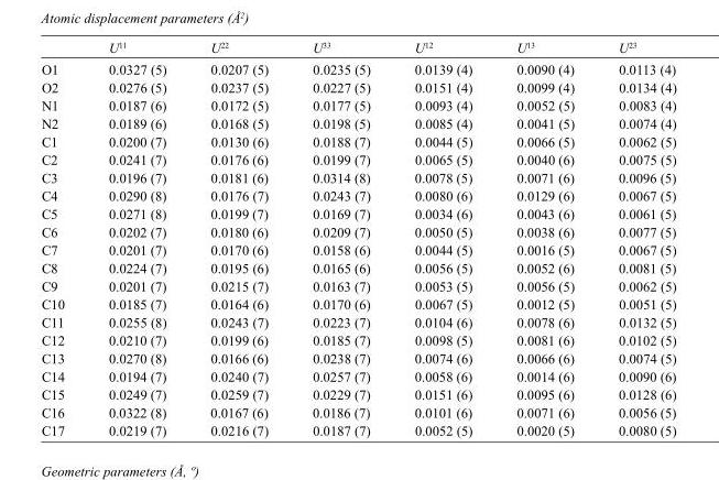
<table><thead><tr><td></td><td>U<sup>11</sup></td><td>U<sup>22</sup></td><td>U<sup>33</sup></td><td>U<sup>12</sup></td><td>U<sup>13</sup></td><td>U<sup>23</sup></td></tr></thead><tbody><tr><td>O1</td><td>0.0327 (5)</td><td>0.0207 (5)</td><td>0.0235 (5)</td><td>0.0139 (4)</td><td>0.0090 (4)</td><td>0.0113 (4)</td></tr><tr><td>O2</td><td>0.0276 (5)</td><td>0.0237 (5)</td><td>0.0227 (5)</td><td>0.0151 (4)</td><td>0.0099 (4)</td><td>0.0134 (4)</td></tr><tr><td>N1</td><td>0.0187 (6)</td><td>0.0172 (5)</td><td>0.0177 (5)</td><td>0.0093 (4)</td><td>0.0052 (5)</td><td>0.0083 (4)</td></tr><tr><td>N2</td><td>0.0189 (6)</td><td>0.0168 (5)</td><td>0.0198 (5)</td><td>0.0085 (4)</td><td>0.0041 (5)</td><td>0.0074 (4)</td></tr><tr><td>C1</td><td>0.0200 (7)</td><td>0.0130 (6)</td><td>0.0188 (7)</td><td>0.0044 (5)</td><td>0.0066 (5)</td><td>0.0062 (5)</td></tr><tr><td>C2</td><td>0.0241 (7)</td><td>0.0176 (6)</td><td>0.0199 (7)</td><td>0.0065 (5)</td><td>0.0040 (6)</td><td>0.0075 (5)</td></tr><tr><td>C3</td><td>0.0196 (7)</td><td>0.0181 (6)</td><td>0.0314 (8)</td><td>0.0078 (5)</td><td>0.0071 (6)</td><td>0.0096 (5)</td></tr><tr><td>C4</td><td>0.0290 (8)</td><td>0.0176 (7)</td><td>0.0243 (7)</td><td>0.0080 (6)</td><td>0.0129 (6)</td><td>0.0067 (5)</td></tr><tr><td>C5</td><td>0.0271 (8)</td><td>0.0199 (7)</td><td>0.0169 (7)</td><td>0.0034 (6)</td><td>0.0043 (6)</td><td>0.0061 (5)</td></tr><tr><td>C6</td><td>0.0202 (7)</td><td>0.0180 (6)</td><td>0.0209 (7)</td><td>0.0050 (5)</td><td>0.0038 (6)</td><td>0.0077 (5)</td></tr><tr><td>C7</td><td>0.0201 (7)</td><td>0.0170 (6)</td><td>0.0158 (6)</td><td>0.0044 (5)</td><td>0.0016 (5)</td><td>0.0067 (5)</td></tr><tr><td>C8</td><td>0.0224 (7)</td><td>0.0195 (6)</td><td>0.0165 (6)</td><td>0.0056 (5)</td><td>0.0052 (6)</td><td>0.0081 (5)</td></tr><tr><td>C9</td><td>0.0201 (7)</td><td>0.0215 (7)</td><td>0.0163 (7)</td><td>0.0053 (5)</td><td>0.0056 (5)</td><td>0.0062 (5)</td></tr><tr><td>C10</td><td>0.0185 (7)</td><td>0.0164 (6)</td><td>0.0170 (6)</td><td>0.0067 (5)</td><td>0.0012 (5)</td><td>0.0051 (5)</td></tr><tr><td>C11</td><td>0.0255 (8)</td><td>0.0243 (7)</td><td>0.0223 (7)</td><td>0.0104 (6)</td><td>0.0078 (6)</td><td>0.0132 (5)</td></tr><tr><td>C12</td><td>0.0210 (7)</td><td>0.0199 (6)</td><td>0.0185 (7)</td><td>0.0098 (5)</td><td>0.0081 (6)</td><td>0.0102 (5)</td></tr><tr><td>C13</td><td>0.0270 (8)</td><td>0.0166 (6)</td><td>0.0238 (7)</td><td>0.0074 (6)</td><td>0.0066 (6)</td><td>0.0074 (5)</td></tr><tr><td>C14</td><td>0.0194 (7)</td><td>0.0240 (7)</td><td>0.0257 (7)</td><td>0.0058 (6)</td><td>0.0014 (6)</td><td>0.0090 (6)</td></tr><tr><td>C15</td><td>0.0249 (7)</td><td>0.0259 (7)</td><td>0.0229 (7)</td><td>0.0151 (6)</td><td>0.0095 (6)</td><td>0.0128 (6)</td></tr><tr><td>C16</td><td>0.0322 (8)</td><td>0.0167 (6)</td><td>0.0186 (7)</td><td>0.0101 (6)</td><td>0.0071 (6)</td><td>0.0056 (5)</td></tr><tr><td>C17</td><td>0.0219 (7)</td><td>0.0216 (7)</td><td>0.0187 (7)</td><td>0.0052 (5)</td><td>0.0020 (5)</td><td>0.0080 (5)</td></tr></tbody></table>